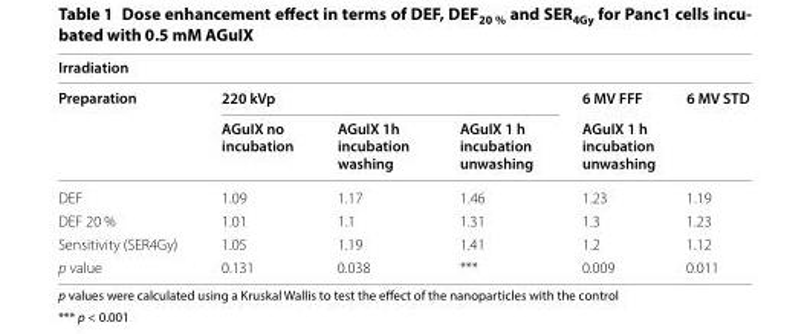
<table><thead><tr><td colspan="6">Irradiation</td></tr><tr><td rowspan="2">Preparation</td><td colspan="3">220 kVp</td><td>6 MV FFF</td><td>6 MV STD</td></tr><tr><td>AGuIX no incubation</td><td>AGuIX 1h incubation washing</td><td>AGuIX 1 h incubation unwashing</td><td colspan="2">AGuIX 1 h incubation unwashing</td></tr></thead><tbody><tr><td>DEF</td><td>1.09</td><td>1.17</td><td>1.46</td><td>1.23</td><td>1.19</td></tr><tr><td>DEF 20 %</td><td>1.01</td><td>1.1</td><td>1.31</td><td>1.3</td><td>1.23</td></tr><tr><td>Sensitivity (SER4Gy)</td><td>1.05</td><td>1.19</td><td>1.41</td><td>1.2</td><td>1.12</td></tr><tr><td>p value</td><td>0.131</td><td>0.038</td><td>***</td><td>0.009</td><td>0.011</td></tr></tbody></table>